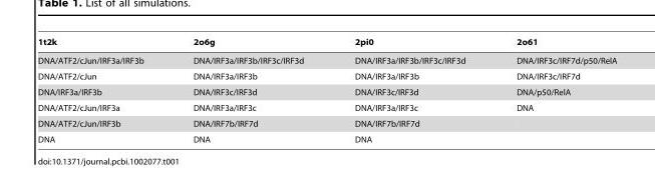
<table><thead><tr><td>1t2k</td><td>2o6g</td><td>2pi0</td><td>2o61</td></tr></thead><tbody><tr><td>DNA/ATF2/cJun/IRF3a/IRF3b</td><td>DNA/IRF3a/IRF3b/IRF3c/IRF3d</td><td>DNA/IRF3a/IRF3b/IRF3c/IRF3d</td><td>DNA/IRF3c/IRF7d/p50/RelA</td></tr><tr><td>DNA/ATF2/cJun</td><td>DNA/IRF3a/IRF3b</td><td>DNA/IRF3a/IRF3b</td><td>DNA/IRF3c/IRF7d</td></tr><tr><td>DNA/IRF3a/IRF3b</td><td>DNA/IRF3c/IRF3d</td><td>DNA/IRF3c/IRF3d</td><td>DNA/p50/RelA</td></tr><tr><td>DNA/ATF2/cJun/IRF3a</td><td>DNA/IRF3a/IRF3c</td><td>DNA/IRF3a/IRF3c</td><td>DNA</td></tr><tr><td>DNA/ATF2/cJun/IRF3b</td><td>DNA/IRF7b/IRF7d</td><td>DNA/IRF7b/IRF7d</td><td></td></tr><tr><td>DNA</td><td>DNA</td><td>DNA</td><td></td></tr></tbody></table>